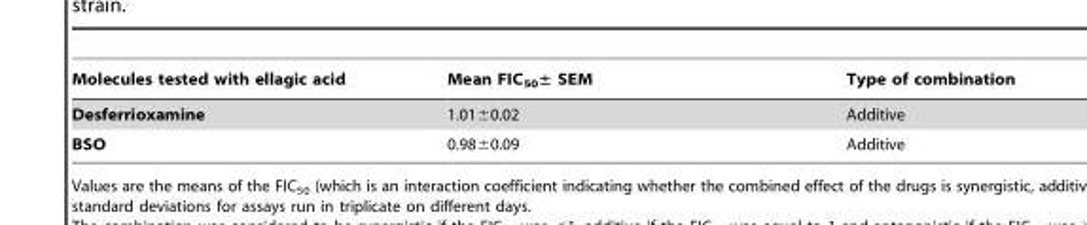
<table><thead><tr><td>Molecules tested with ellagic acid</td><td>Mean FIC<sub>50</sub>± SEM</td><td>Type of combination</td></tr></thead><tbody><tr><td>Desferrioxamine</td><td>1.01±0.02</td><td>Additive</td></tr><tr><td>BSO</td><td>0.98±0.09</td><td>Additive</td></tr></tbody></table>